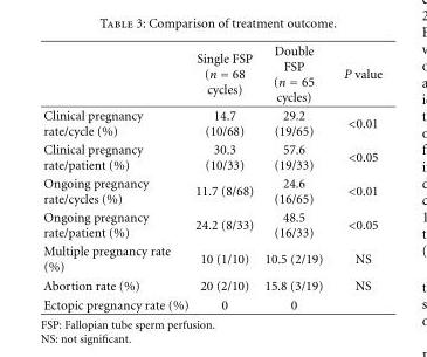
<table><thead><tr><td></td><td>Single FSP (n = 68 cycles)</td><td>Double FSP (n = 65 cycles)</td><td>P value</td></tr></thead><tbody><tr><td>Clinical pregnancy rate/cycle (%)</td><td>14.7 (10/68)</td><td>29.2 (19/65)</td><td>&lt;0.01</td></tr><tr><td>Clinical pregnancy rate/patient (%)</td><td>30.3 (10/33)</td><td>57.6 (19/33)</td><td>&lt;0.05</td></tr><tr><td>Ongoing pregnancy rate/cycles (%)</td><td>11.7 (8/68)</td><td>24.6 (16/65)</td><td>&lt;0.01</td></tr><tr><td>Ongoing pregnancy rate/patient (%)</td><td>24.2 (8/33)</td><td>48.5 (16/33)</td><td>&lt;0.05</td></tr><tr><td>Multiple pregnancy rate (%)</td><td>10 (1/10)</td><td>10.5 (2/19)</td><td>NS</td></tr><tr><td>Abortion rate (%)</td><td>20 (2/10)</td><td>15.8 (3/19)</td><td>NS</td></tr><tr><td>Ectopic pregnancy rate (%)</td><td>0</td><td>0</td><td></td></tr></tbody></table>